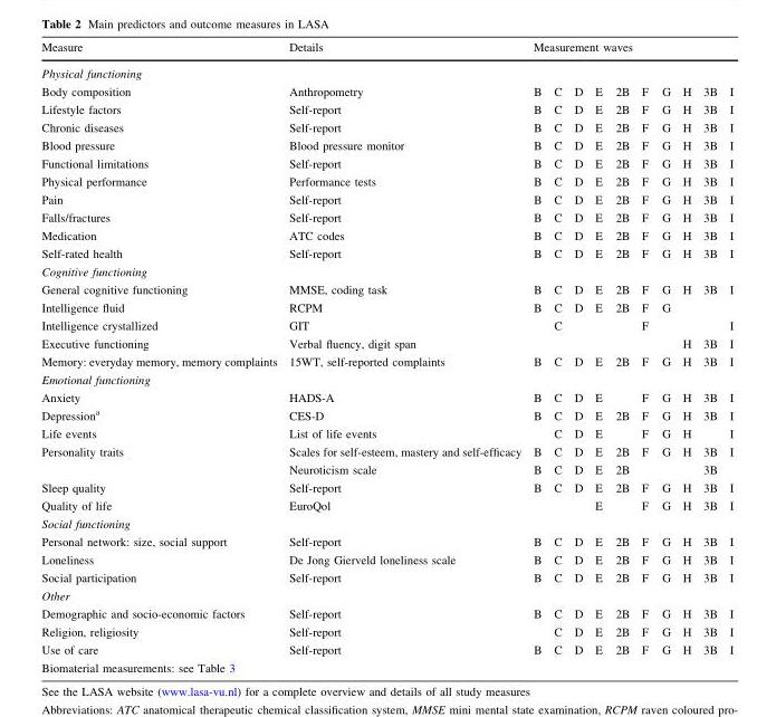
<table><thead><tr><td>Measure</td><td>Details</td><td colspan="10">Measurement waves</td></tr><tr><td colspan="12">Physical functioning</td></tr><tr><td>Body composition</td><td>Anthropometry</td><td>B</td><td>C</td><td>D</td><td>E</td><td>2B</td><td>F</td><td>G</td><td>H</td><td>3B</td><td>I</td></tr></thead><tbody><tr><td>Lifestyle factors</td><td>Self-report</td><td>B</td><td>C</td><td>D</td><td>E</td><td>2B</td><td>F</td><td>G</td><td>H</td><td>3B</td><td>I</td></tr><tr><td>Chronic diseases</td><td>Self-report</td><td>B</td><td>C</td><td>D</td><td>E</td><td>2B</td><td>F</td><td>G</td><td>H</td><td>3B</td><td>I</td></tr><tr><td>Blood pressure</td><td>Blood pressure monitor</td><td>B</td><td>C</td><td>D</td><td>E</td><td>2B</td><td>F</td><td>G</td><td>H</td><td>3B</td><td>I</td></tr><tr><td>Functional limitations</td><td>Self-report</td><td>B</td><td>C</td><td>D</td><td>E</td><td>2B</td><td>F</td><td>G</td><td>H</td><td>3B</td><td>I</td></tr><tr><td>Physical performance</td><td>Performance tests</td><td>B</td><td>C</td><td>D</td><td>E</td><td>2B</td><td>F</td><td>G</td><td>H</td><td>3B</td><td>I</td></tr><tr><td>Pain</td><td>Self-report</td><td>B</td><td>C</td><td>D</td><td>E</td><td>2B</td><td>F</td><td>G</td><td>H</td><td>3B</td><td>I</td></tr><tr><td>Falls/fractures</td><td>Self-report</td><td>B</td><td>C</td><td>D</td><td>E</td><td>2B</td><td>F</td><td>G</td><td>H</td><td>3B</td><td>I</td></tr><tr><td>Medication</td><td>ATC codes</td><td>B</td><td>C</td><td>D</td><td>E</td><td>2B</td><td>F</td><td>G</td><td>H</td><td>3B</td><td>I</td></tr><tr><td>Self-rated health</td><td>Self-report</td><td>B</td><td>C</td><td>D</td><td>E</td><td>2B</td><td>F</td><td>G</td><td>H</td><td>3B</td><td>I</td></tr><tr><td colspan="12">Cognitive functioning</td></tr><tr><td>General cognitive functioning</td><td>MMSE, coding task</td><td>B</td><td>C</td><td>D</td><td>E</td><td>2B</td><td>F</td><td>G</td><td>H</td><td>3B</td><td>I</td></tr><tr><td>Intelligence fluid</td><td>RCPM</td><td>B</td><td>C</td><td>D</td><td>E</td><td>2B</td><td>F</td><td>G</td><td></td><td></td><td></td></tr><tr><td>Intelligence crystallized</td><td>GIT</td><td></td><td>C</td><td></td><td></td><td></td><td>F</td><td></td><td></td><td></td><td>I</td></tr><tr><td>Executive functioning</td><td>Verbal fluency, digit span</td><td></td><td></td><td></td><td></td><td></td><td></td><td></td><td>H</td><td>3B</td><td>I</td></tr><tr><td>Memory: everyday memory, memory complaints</td><td>15WT, self-reported complaints</td><td>B</td><td>C</td><td>D</td><td>E</td><td>2B</td><td>F</td><td>G</td><td>H</td><td>3B</td><td>I</td></tr><tr><td colspan="12">Emotional functioning</td></tr><tr><td>Anxiety</td><td>HADS-A</td><td>B</td><td>C</td><td>D</td><td>E</td><td></td><td>F</td><td>G</td><td>H</td><td>3B</td><td>I</td></tr><tr><td>Depression<sup>a</sup></td><td>CES-D</td><td>B</td><td>C</td><td>D</td><td>E</td><td>2B</td><td>F</td><td>G</td><td>H</td><td>3B</td><td>I</td></tr><tr><td>Life events</td><td>List of life events</td><td></td><td>C</td><td>D</td><td>E</td><td></td><td>F</td><td>G</td><td>H</td><td></td><td>I</td></tr><tr><td rowspan="2">Personality traits</td><td>Scales for self-esteem, mastery and self-efficacy</td><td>B</td><td>C</td><td>D</td><td>E</td><td>2B</td><td>F</td><td>G</td><td>H</td><td>3B</td><td>I</td></tr><tr><td>Neuroticism scale</td><td>B</td><td>C</td><td>D</td><td>E</td><td>2B</td><td></td><td></td><td></td><td>3B</td><td></td></tr><tr><td>Sleep quality</td><td>Self-report</td><td>B</td><td>C</td><td>D</td><td>E</td><td>2B</td><td>F</td><td>G</td><td>H</td><td>3B</td><td>I</td></tr><tr><td>Quality of life</td><td>EuroQol</td><td></td><td></td><td></td><td>E</td><td></td><td>F</td><td>G</td><td>H</td><td>3B</td><td>I</td></tr><tr><td colspan="12">Social functioning</td></tr><tr><td>Personal network: size, social support</td><td>Self-report</td><td>B</td><td>C</td><td>D</td><td>E</td><td>2B</td><td>F</td><td>G</td><td>H</td><td>3B</td><td>I</td></tr><tr><td>Loneliness</td><td>De Jong Gierveld loneliness scale</td><td>B</td><td>C</td><td>D</td><td>E</td><td>2B</td><td>F</td><td>G</td><td>H</td><td>3B</td><td>I</td></tr><tr><td>Social participation</td><td>Self-report</td><td>B</td><td>C</td><td>D</td><td>E</td><td>2B</td><td>F</td><td>G</td><td>H</td><td>3B</td><td>I</td></tr><tr><td colspan="12">Other</td></tr><tr><td>Demographic and socio-economic factors</td><td>Self-report</td><td>B</td><td>C</td><td>D</td><td>E</td><td>2B</td><td>F</td><td>G</td><td>H</td><td>3B</td><td>I</td></tr><tr><td>Religion, religiosity</td><td>Self-report</td><td></td><td>C</td><td>D</td><td>E</td><td>2B</td><td>F</td><td>G</td><td>H</td><td>3B</td><td>I</td></tr><tr><td>Use of care</td><td>Self-report</td><td>B</td><td>C</td><td>D</td><td>E</td><td>2B</td><td>F</td><td>G</td><td>H</td><td>3B</td><td>I</td></tr><tr><td>Biomaterial measurements: see Table 3</td><td></td><td></td><td></td><td></td><td></td><td></td><td></td><td></td><td></td><td></td><td></td></tr></tbody></table>